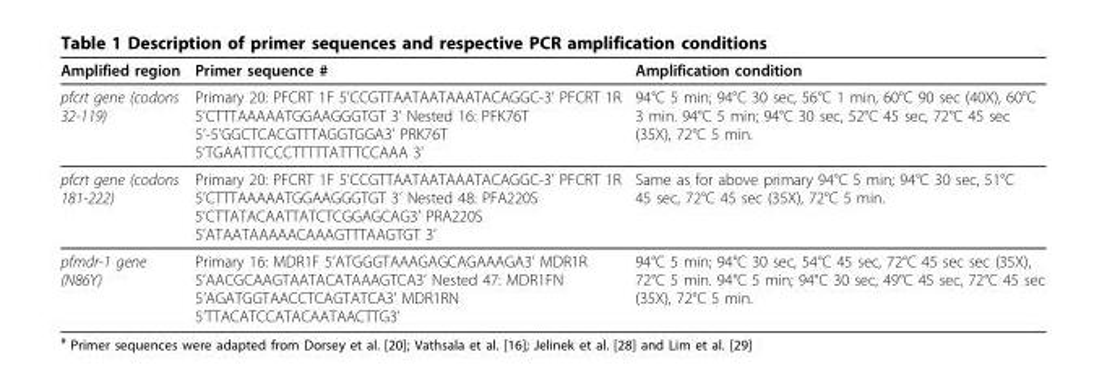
<table><thead><tr><td>Amplified region</td><td>Primer sequence #</td><td>Amplification condition</td></tr></thead><tbody><tr><td>pfcrt gene (codons 32-119)</td><td>Primary 20: PFCRT 1F 5’CCGTTAATAATAAATACAGGC-3’ PFCRT 1R 5’CTTTAAAAATGGAAGGGTGT 3’ Nested 16: PFK76T 5’-5’GGCTCACGTTTAGGTGGA3’ PRK76T 5’TGAATTTCCCTTTTTATTTCCAAA 3’</td><td>94°C 5 min; 94°C 30 sec, 56°C 1 min, 60°C 90 sec (40X), 60°C 3 min. 94°C 5 min; 94°C 30 sec, 52°C 45 sec, 72°C 45 sec (35X), 72°C 5 min.</td></tr><tr><td>pfcrt gene (codons 181-222)</td><td>Primary 20: PFCRT 1F 5’CCGTTAATAATAAATACAGGC-3’ PFCRT 1R 5’CTTTAAAAATGGAAGGGTGT 3’ Nested 48: PFA220S 5’CTTATACAATTATCTCGGAGCAG3’ PRA220S 5’ATAATAAAAACAAAGTTTAAGTGT 3’</td><td>Same as for above primary 94°C 5 min; 94°C 30 sec, 51°C 45 sec, 72°C 45 sec (35X), 72°C 5 min.</td></tr><tr><td>pfmdr-1 gene (N86Y)</td><td>Primary 16: MDR1F 5’ATGGGTAAAGAGCAGAAAGA3’ MDR1R 5’AACGCAAGTAATACATAAAGTCA3’ Nested 47: MDR1FN 5’AGATGGTAACCTCAGTATCA3’ MDR1RN 5’TTACATCCATACAATAACTTG3’</td><td>94°C 5 min; 94°C 30 sec, 54°C 45 sec, 72°C 45 sec sec (35Χ), 72°C 5 min. 94°C 5 min; 94°C 30 sec, 49°C 45 sec, 72°C 45 sec (35X), 72°C 5 min.</td></tr></tbody></table>